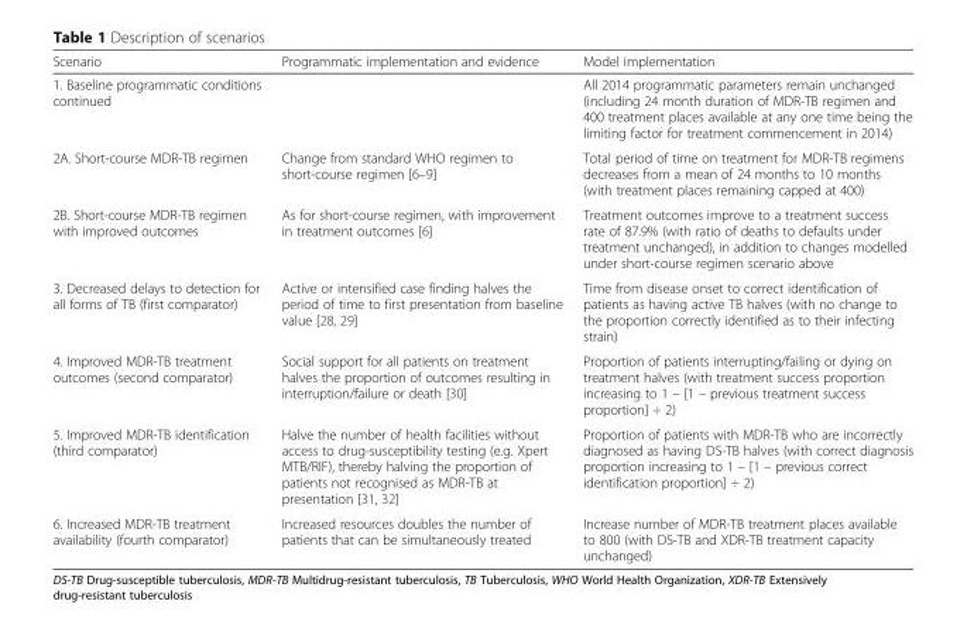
<table><thead><tr><td>Scenario</td><td>Programmatic implementation and evidence</td><td>Model implementation</td></tr></thead><tbody><tr><td>1. Baseline programmatic conditions continued</td><td></td><td>All 2014 programmatic parameters remain unchanged (including 24 month duration of MDR-TB regimen and 400 treatment places available at any one time being the limiting factor for treatment commencement in 2014)</td></tr><tr><td>2A. Short-course MDR-TB regimen</td><td>Change from standard WHO regimen to short-course regimen [6–9]</td><td>Total period of time on treatment for MDR-TB regimens decreases from a mean of 24 months to 10 months (with treatment places remaining capped at 400)</td></tr><tr><td>2B. Short-course MDR-TB regimen with improved outcomes</td><td>As for short-course regimen, with improvement in treatment outcomes [6]</td><td>Treatment outcomes improve to a treatment success rate of 87.9% (with ratio of deaths to defaults under treatment unchanged), in addition to changes modelled under short-course regimen scenario above</td></tr><tr><td>3. Decreased delays to detection for all forms of TB (first comparator)</td><td>Active or intensified case finding halves the period of time to first presentation from baseline value [28, 29]</td><td>Time from disease onset to correct identification of patients as having active TB halves (with no change to the proportion correctly identified as to their infecting strain)</td></tr><tr><td>4. Improved MDR-TB treatment outcomes (second comparator)</td><td>Social support for all patients on treatment halves the proportion of outcomes resulting in interruption/failure or death [30]</td><td>Proportion of patients interrupting/failing or dying on treatment halves (with treatment success proportion increasing to 1 – [1 – previous treatment success proportion] ÷ 2)</td></tr><tr><td>5. Improved MDR-TB identification (third comparator)</td><td>Halve the number of health facilities without access to drug-susceptibility testing (e.g. Xpert MTB/RIF), thereby halving the proportion of patients not recognised as MDR-TB at presentation [31, 32]</td><td>Proportion of patients with MDR-TB who are incorrectly diagnosed as having DS-TB halves (with correct diagnosis proportion increasing to 1 – [1 – previous correct identification proportion] ÷ 2)</td></tr><tr><td>6. Increased MDR-TB treatment availability (fourth comparator)</td><td>Increased resources doubles the number of patients that can be simultaneously treated</td><td>Increase number of MDR-TB treatment places available to 800 (with DS-TB and XDR-TB treatment capacity unchanged)</td></tr></tbody></table>